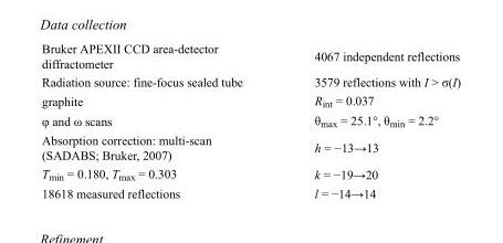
<table><tbody><tr><td>Bruker APEXII CCD area-detector diffractometer</td><td>4067 independent reflections</td></tr><tr><td>Radiation source: fine-focus sealed tube</td><td>3579 reflections with I &gt; σ(I)</td></tr><tr><td>graphite</td><td>R<sub>int</sub> = 0.037</td></tr><tr><td>φ and ω scans</td><td>θ<sub>max</sub> = 25.1°, θ<sub>min</sub> = 2.2°</td></tr><tr><td>Absorption correction: multi-scan (SADABS; Bruker, 2007)</td><td>h = −13→13</td></tr><tr><td>T<sub>min</sub> = 0.180, T<sub>max</sub> = 0.303</td><td>k = −19→20</td></tr><tr><td>18618 measured reflections</td><td>l = −14→14</td></tr></tbody></table>